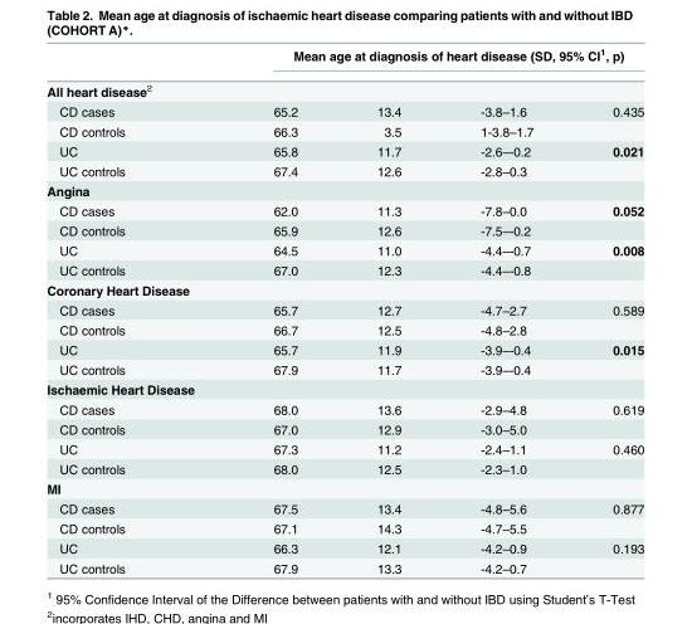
<table><thead><tr><td rowspan="3">All heart disease<sup>2</sup> CD cases</td><td rowspan="2" colspan="4">Mean age at diagnosis of heart disease (SD, 95% CI<sup>1</sup>, p)</td></tr><tr></tr><tr><td>65.2</td><td>13.4</td><td>-3.8–1.6</td><td>0.435</td></tr></thead><tbody><tr><td>CD controls</td><td>66.3</td><td>3.5</td><td>1-3.8–1.7</td><td></td></tr><tr><td>UC</td><td>65.8</td><td>11.7</td><td>-2.6–-0.2</td><td>0.021</td></tr><tr><td>UC controls</td><td>67.4</td><td>12.6</td><td>-2.8–0.3</td><td></td></tr><tr><td colspan="5">Angina</td></tr><tr><td>CD cases</td><td>62.0</td><td>11.3</td><td>-7.8–0.0</td><td>0.052</td></tr><tr><td>CD controls</td><td>65.9</td><td>12.6</td><td>-7.5–-0.2</td><td></td></tr><tr><td>UC</td><td>64.5</td><td>11.0</td><td>-4.4–-0.7</td><td>0.008</td></tr><tr><td>UC controls</td><td>67.0</td><td>12.3</td><td>-4.4–-0.8</td><td></td></tr><tr><td colspan="5">Coronary Heart Disease</td></tr><tr><td>CD cases</td><td>65.7</td><td>12.7</td><td>-4.7–2.7</td><td>0.589</td></tr><tr><td>CD controls</td><td>66.7</td><td>12.5</td><td>-4.8–2.8</td><td></td></tr><tr><td>UC</td><td>65.7</td><td>11.9</td><td>-3.9–-0.4</td><td>0.015</td></tr><tr><td>UC controls</td><td>67.9</td><td>11.7</td><td>-3.9–-0.4</td><td></td></tr><tr><td colspan="5">Ischaemic Heart Disease</td></tr><tr><td>CD cases</td><td>68.0</td><td>13.6</td><td>-2.9–4.8</td><td>0.619</td></tr><tr><td>CD controls</td><td>67.0</td><td>12.9</td><td>-3.0–5.0</td><td></td></tr><tr><td>UC</td><td>67.3</td><td>11.2</td><td>-2.4–1.1</td><td>0.460</td></tr><tr><td>UC controls</td><td>68.0</td><td>12.5</td><td>-2.3–1.0</td><td></td></tr><tr><td colspan="5">MI</td></tr><tr><td>CD cases</td><td>67.5</td><td>13.4</td><td>-4.8–5.6</td><td>0.877</td></tr><tr><td>CD controls</td><td>67.1</td><td>14.3</td><td>-4.7–5.5</td><td></td></tr><tr><td>UC</td><td>66.3</td><td>12.1</td><td>-4.2–0.9</td><td>0.193</td></tr><tr><td>UC controls</td><td>67.9</td><td>13.3</td><td>-4.2–0.7</td><td></td></tr></tbody></table>